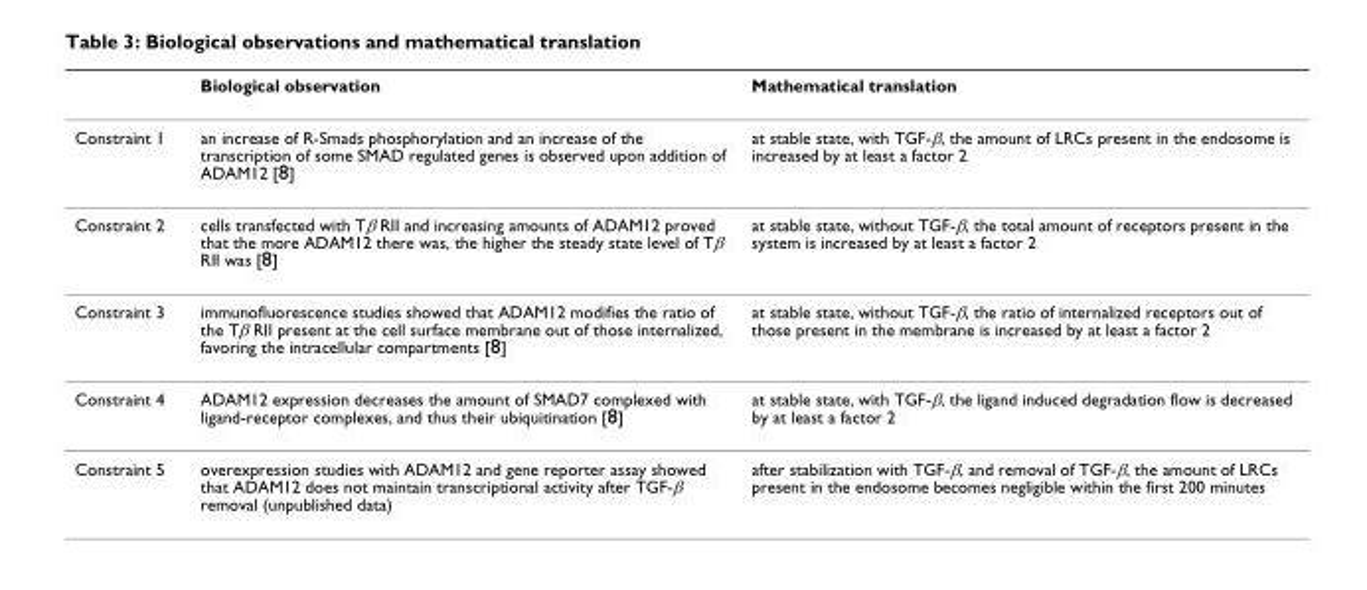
<table><thead><tr><td></td><td>Biological observation</td><td>Mathematical translation</td></tr></thead><tbody><tr><td>Constraint 1</td><td>an increase of R-Smads phosphorylation and an increase of the transcription of some SMAD regulated genes is observed upon addition of ADAM12 [8]</td><td>at stable state, with TGF-β, the amount of LRCs present in the endosome is increased by at least a factor 2</td></tr><tr><td>Constraint 2</td><td>cells transfected with Tβ RII and increasing amounts of ADAM12 proved that the more ADAM12 there was, the higher the steady state level of Tβ RII was [8]</td><td>at stable state, without TGF-β, the total amount of receptors present in the system is increased by at least a factor 2</td></tr><tr><td>Constraint 3</td><td>immunofluorescence studies showed that ADAM12 modifies the ratio of the Tβ RII present at the cell surface membrane out of those internalized, favoring the intracellular compartments [8]</td><td>at stable state, without TGF-β, the ratio of internalized receptors out of those present in the membrane is increased by at least a factor 2</td></tr><tr><td>Constraint 4</td><td>ADAM12 expression decreases the amount of SMAD7 complexed with ligand-receptor complexes, and thus their ubiquitination [8]</td><td>at stable state, with TGF-β, the ligand induced degradation flow is decreased by at least a factor 2</td></tr><tr><td>Constraint 5</td><td>overexpression studies with ADAM12 and gene reporter assay showed that ADAM12 does not maintain transcriptional activity after TGF-β removal (unpublished data)</td><td>after stabilization with TGF-β, and removal of TGF-β, the amount of LRCs present in the endosome becomes negligible within the first 200 minutes</td></tr></tbody></table>